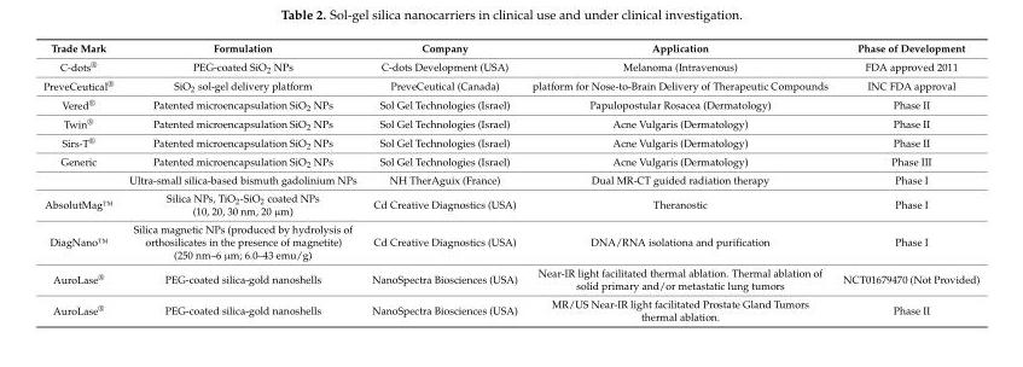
<table><thead><tr><td>Trade Mark</td><td>Formulation</td><td>Company</td><td>Application</td><td>Phase of Development</td></tr></thead><tbody><tr><td>C-dots<sup>®</sup></td><td>PEG-coated SiO<sub>2</sub> NPs</td><td>C-dots Development (USA)</td><td>Melanoma (Intravenous)</td><td>FDA approved 2011</td></tr><tr><td>PreveCeutical<sup>®</sup></td><td>SiO<sub>2</sub> sol-gel delivery platform</td><td>PreveCeutical (Canada)</td><td>platform for Nose-to-Brain Delivery of Therapeutic Compounds</td><td>INC FDA approval</td></tr><tr><td>Vered<sup>®</sup></td><td>Patented microencapsulation SiO<sub>2</sub> NPs</td><td>Sol Gel Technologies (Israel)</td><td>Papulopostular Rosacea (Dermatology)</td><td>Phase II</td></tr><tr><td>Twin<sup>®</sup></td><td>Patented microencapsulation SiO<sub>2</sub> NPs</td><td>Sol Gel Technologies (Israel)</td><td>Acne Vulgaris (Dermatology)</td><td>Phase II</td></tr><tr><td>Sirs-T<sup>®</sup></td><td>Patented microencapsulation SiO<sub>2</sub> NPs</td><td>Sol Gel Technologies (Israel)</td><td>Acne Vulgaris (Dermatology)</td><td>Phase II</td></tr><tr><td rowspan="2">Generic</td><td>Patented microencapsulation SiO<sub>2</sub> NPs</td><td>Sol Gel Technologies (Israel)</td><td>Acne Vulgaris (Dermatology)</td><td>Phase III</td></tr><tr><td>Ultra-small silica-based bismuth gadolinium NPs</td><td>NH TherAguix (France)</td><td>Dual MR-CT guided radiation therapy</td><td>Phase I</td></tr><tr><td>AbsolutMag™</td><td>Silica NPs, TiO<sub>2</sub>-SiO<sub>2</sub> coated NPs (10, 20, 30 nm, 20 µm)</td><td>Cd Creative Diagnostics (USA)</td><td>Theranostic</td><td>Phase I</td></tr><tr><td>DiagNano™</td><td>Silica magnetic NPs (produced by hydrolysis of orthosilicates in the presence of magnetite) (250 nm–6 µm; 6.0–43 emu/g)</td><td>Cd Creative Diagnostics (USA)</td><td>DNA/RNA isolationa and purification</td><td>Phase I</td></tr><tr><td>AuroLase<sup>®</sup></td><td>PEG-coated silica-gold nanoshells</td><td>NanoSpectra Biosciences (USA)</td><td>Near-IR light facilitated thermal ablation. Thermal ablation of solid primary and/or metastatic lung tumors</td><td>NCT01679470 (Not Provided)</td></tr><tr><td>AuroLase<sup>®</sup></td><td>PEG-coated silica-gold nanoshells</td><td>NanoSpectra Biosciences (USA)</td><td>MR/US Near-IR light facilitated Prostate Gland Tumors thermal ablation.</td><td>Phase II</td></tr></tbody></table>